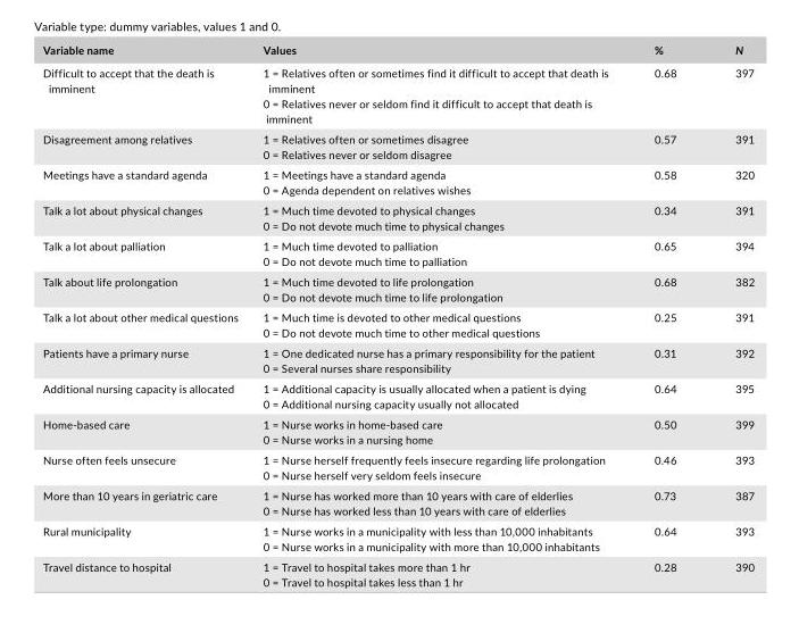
<table><thead><tr><td>Variable name</td><td>Values</td><td>%</td><td>N</td></tr></thead><tbody><tr><td>Difficult to accept that the death is imminent</td><td>1 = Relatives often or sometimes find it difficult to accept that death is imminent 0 = Relatives never or seldom find it difficult to accept that death is imminent</td><td>0.68</td><td>397</td></tr><tr><td>Disagreement among relatives</td><td>1 = Relatives often or sometimes disagree 0 = Relatives never or seldom disagree</td><td>0.57</td><td>391</td></tr><tr><td>Meetings have a standard agenda</td><td>1 = Meetings have a standard agenda 0 = Agenda dependent on relatives wishes</td><td>0.58</td><td>320</td></tr><tr><td>Talk a lot about physical changes</td><td>1 = Much time devoted to physical changes 0 = Do not devote much time to physical changes</td><td>0.34</td><td>391</td></tr><tr><td>Talk a lot about palliation</td><td>1 = Much time devoted to palliation 0 = Do not devote much time to palliation</td><td>0.65</td><td>394</td></tr><tr><td>Talk about life prolongation</td><td>1 = Much time devoted to life prolongation 0 = Do not devote much time to life prolongation</td><td>0.68</td><td>382</td></tr><tr><td>Talk a lot about other medical questions</td><td>1 = Much time is devoted to other medical questions 0 = Do not devote much time to other medical questions</td><td>0.25</td><td>391</td></tr><tr><td>Patients have a primary nurse</td><td>1 = One dedicated nurse has a primary responsibility for the patient 0 = Several nurses share responsibility</td><td>0.31</td><td>392</td></tr><tr><td>Additional nursing capacity is allocated</td><td>1 = Additional capacity is usually allocated when a patient is dying 0 = Additional nursing capacity usually not allocated</td><td>0.64</td><td>395</td></tr><tr><td>Home- based care</td><td>1 = Nurse works in home- based care 0 = Nurse works in a nursing home</td><td>0.50</td><td>399</td></tr><tr><td>Nurse often feels unsecure</td><td>1 = Nurse herself frequently feels insecure regarding life prolongation 0 = Nurse herself very seldom feels insecure</td><td>0.46</td><td>393</td></tr><tr><td>More than 10 years in geriatric care</td><td>1 = Nurse has worked more than 10 years with care of elderlies 0 = Nurse has worked less than 10 years with care of elderlies</td><td>0.73</td><td>387</td></tr><tr><td>Rural municipality</td><td>1 = Nurse works in a municipality with less than 10,000 inhabitants 0 = Nurse works in a municipality with more than 10,000 inhabitants</td><td>0.64</td><td>393</td></tr><tr><td>Travel distance to hospital</td><td>1 = Travel to hospital takes more than 1 hr 0 = Travel to hospital takes less than 1 hr</td><td>0.28</td><td>390</td></tr></tbody></table>